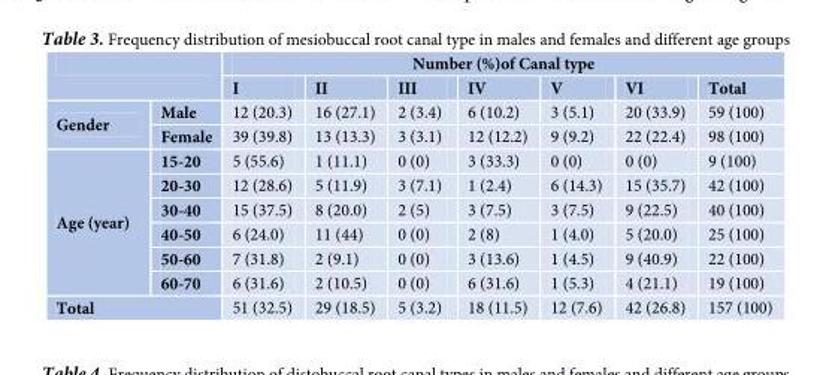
<table><thead><tr><td rowspan="2"></td><td rowspan="2"></td><td colspan="7">Number (%)of Canal type</td></tr><tr><td>I</td><td>II</td><td>III</td><td>IV</td><td>V</td><td>VI</td><td>Total</td></tr></thead><tbody><tr><td rowspan="2">Gender</td><td>Male</td><td>12 (20.3)</td><td>16 (27.1)</td><td>2 (3.4)</td><td>6 (10.2)</td><td>3 (5.1)</td><td>20 (33.9)</td><td>59 (100)</td></tr><tr><td>Female</td><td>39 (39.8)</td><td>13 (13.3)</td><td>3 (3.1)</td><td>12 (12.2)</td><td>9 (9.2)</td><td>22 (22.4)</td><td>98 (100)</td></tr><tr><td rowspan="6">Age (year)</td><td>15-20</td><td>5 (55.6)</td><td>1 (11.1)</td><td>0 (0)</td><td>3 (33.3)</td><td>0 (0)</td><td>0 (0)</td><td>9 (100)</td></tr><tr><td>20-30</td><td>12 (28.6)</td><td>5 (11.9)</td><td>3 (7.1)</td><td>1 (2.4)</td><td>6 (14.3)</td><td>15 (35.7)</td><td>42 (100)</td></tr><tr><td>30-40</td><td>15 (37.5)</td><td>8 (20.0)</td><td>2 (5)</td><td>3 (7.5)</td><td>3 (7.5)</td><td>9 (22.5)</td><td>40 (100)</td></tr><tr><td>40-50</td><td>6 (24.0)</td><td>11 (44)</td><td>0 (0)</td><td>2 (8)</td><td>1 (4.0)</td><td>5 (20.0)</td><td>25 (100)</td></tr><tr><td>50-60</td><td>7 (31.8)</td><td>2 (9.1)</td><td>0 (0)</td><td>3 (13.6)</td><td>1 (4.5)</td><td>9 (40.9)</td><td>22 (100)</td></tr><tr><td>60-70</td><td>6 (31.6)</td><td>2 (10.5)</td><td>0 (0)</td><td>6 (31.6)</td><td>1 (5.3)</td><td>4 (21.1)</td><td>19 (100)</td></tr><tr><td colspan="2">Total</td><td>51 (32.5)</td><td>29 (18.5)</td><td>5 (3.2)</td><td>18 (11.5)</td><td>12 (7.6)</td><td>42 (26.8)</td><td>157 (100)</td></tr></tbody></table>